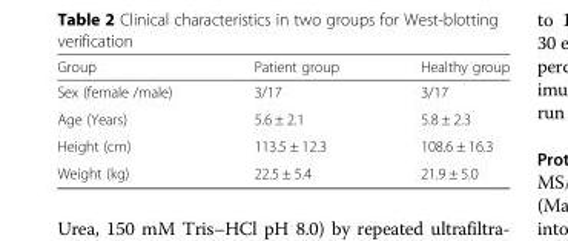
<table><thead><tr><td>Group</td><td>Patient group</td><td>Healthy group</td></tr></thead><tbody><tr><td>Sex (female /male)</td><td>3/17</td><td>3/17</td></tr><tr><td>Age (Years)</td><td>5.6 ± 2.1</td><td>5.8 ± 2.3</td></tr><tr><td>Height (cm)</td><td>113.5 ± 12.3</td><td>108.6 ± 16.3</td></tr><tr><td>Weight (kg)</td><td>22.5 ± 5.4</td><td>21.9 ± 5.0</td></tr></tbody></table>